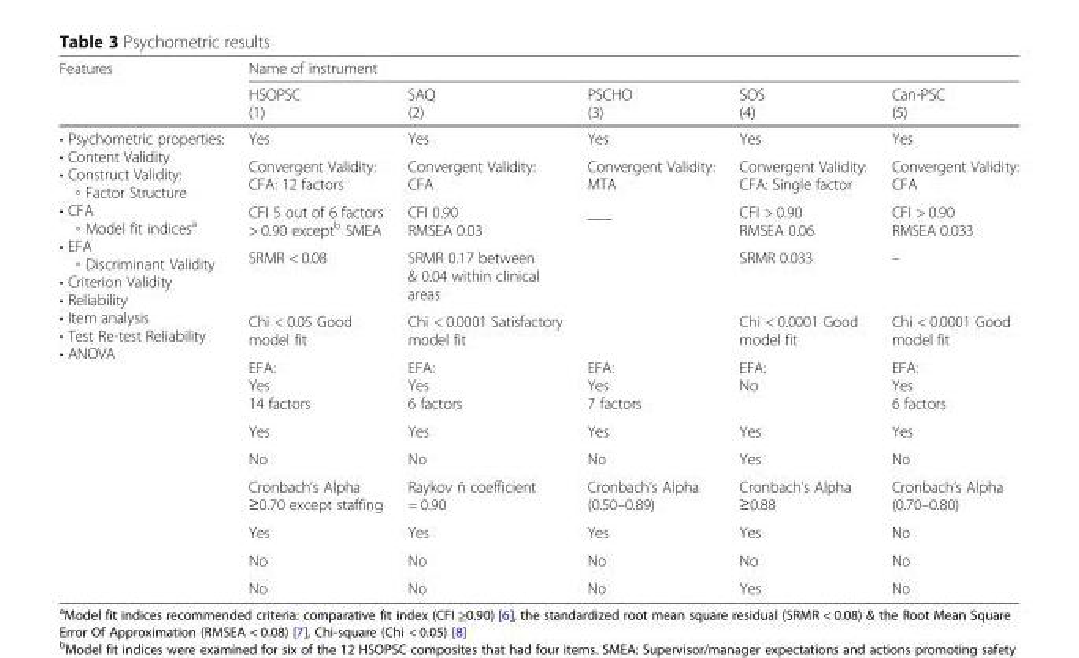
<table><thead><tr><td rowspan="2">Features</td><td colspan="5">Name of instrument</td></tr><tr><td>HSOPSC (1)</td><td>SAQ (2)</td><td>PSCHO (3)</td><td>SOS (4)</td><td>Can-PSC (5)</td></tr></thead><tbody><tr><td rowspan="12">• Psychometric properties: • Content Validity • Construct Validity: ◦ Factor Structure • CFA ◦ Model fit indices<sup>a</sup> • EFA ◦ Discriminant Validity • Criterion Validity • Reliability • Item analysis • Test Re-test Reliability • ANOVA</td><td>Yes</td><td>Yes</td><td>Yes</td><td>Yes</td><td>Yes</td></tr><tr><td>Convergent Validity: CFA: 12 factors</td><td>Convergent Validity: CFA</td><td>Convergent Validity: MTA</td><td>Convergent Validity: CFA: Single factor</td><td>Convergent Validity: CFA</td></tr><tr><td>CFI 5 out of 6 factors &gt; 0.90 except<sup>b</sup> SMEA</td><td>CFI 0.90 RMSEA 0.03</td><td>___</td><td>CFI &gt; 0.90 RMSEA 0.06</td><td>CFI &gt; 0.90 RMSEA 0.033</td></tr><tr><td>SRMR &lt; 0.08</td><td>SRMR 0.17 between &amp; 0.04 within clinical areas</td><td></td><td>SRMR 0.033</td><td>–</td></tr><tr><td>Chi &lt; 0.05 Good model fit</td><td>Chi &lt; 0.0001 Satisfactory model fit</td><td></td><td>Chi &lt; 0.0001 Good model fit</td><td>Chi &lt; 0.0001 Good model fit</td></tr><tr><td>EFA: Yes 14 factors</td><td>EFA: Yes 6 factors</td><td>EFA: Yes 7 factors</td><td>EFA: No</td><td>EFA: Yes 6 factors</td></tr><tr><td>Yes</td><td>Yes</td><td>Yes</td><td>Yes</td><td>Yes</td></tr><tr><td>No</td><td>No</td><td>No</td><td>Yes</td><td>No</td></tr><tr><td>Cronbach’s Alpha ≥0.70 except staffing</td><td>Raykov ñ coefficient = 0.90</td><td>Cronbach’s Alpha (0.50–0.89)</td><td>Cronbach’s Alpha ≥0.88</td><td>Cronbach’s Alpha (0.70–0.80)</td></tr><tr><td>Yes</td><td>Yes</td><td>Yes</td><td>Yes</td><td>No</td></tr><tr><td>No</td><td>No</td><td>No</td><td>No</td><td>No</td></tr><tr><td>No</td><td>No</td><td>No</td><td>Yes</td><td>No</td></tr></tbody></table>